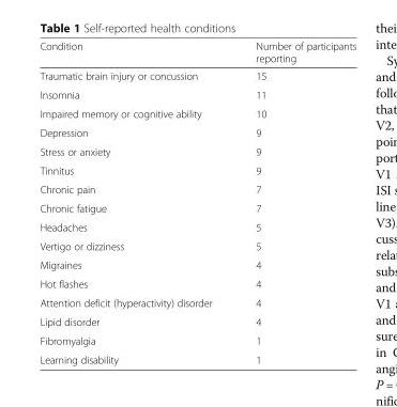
<table><thead><tr><td>Condition</td><td>Number of participants reporting</td></tr></thead><tbody><tr><td>Traumatic brain injury or concussion</td><td>15</td></tr><tr><td>Insomnia</td><td>11</td></tr><tr><td>Impaired memory or cognitive ability</td><td>10</td></tr><tr><td>Depression</td><td>9</td></tr><tr><td>Stress or anxiety</td><td>9</td></tr><tr><td>Tinnitus</td><td>9</td></tr><tr><td>Chronic pain</td><td>7</td></tr><tr><td>Chronic fatigue</td><td>7</td></tr><tr><td>Headaches</td><td>5</td></tr><tr><td>Vertigo or dizziness</td><td>5</td></tr><tr><td>Migraines</td><td>4</td></tr><tr><td>Hot flashes</td><td>4</td></tr><tr><td>Attention deficit (hyperactivity) disorder</td><td>4</td></tr><tr><td>Lipid disorder</td><td>4</td></tr><tr><td>Fibromyalgia</td><td>1</td></tr><tr><td>Learning disability</td><td>1</td></tr></tbody></table>